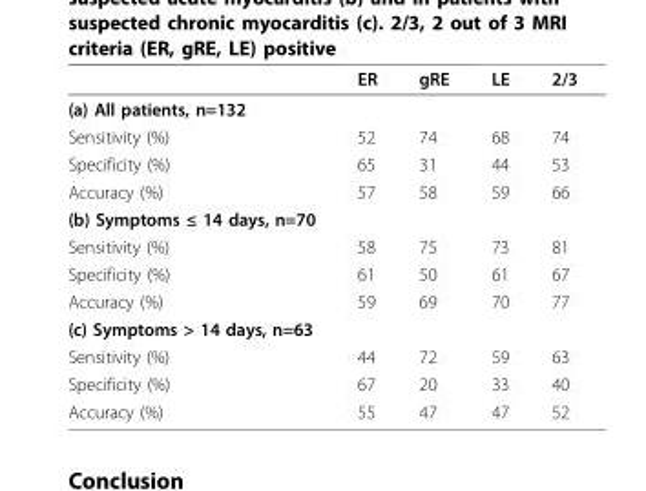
<table><thead><tr><td></td><td>ER</td><td>gRE</td><td>LE</td><td>2/3</td></tr></thead><tbody><tr><td colspan="5">(a) All patients, n=132</td></tr><tr><td>Sensitivity (%)</td><td>52</td><td>74</td><td>68</td><td>74</td></tr><tr><td>Specificity (%)</td><td>65</td><td>31</td><td>44</td><td>53</td></tr><tr><td>Accuracy (%)</td><td>57</td><td>58</td><td>59</td><td>66</td></tr><tr><td colspan="5">(b) Symptoms ≤ 14 days, n=70</td></tr><tr><td>Sensitivity (%)</td><td>58</td><td>75</td><td>73</td><td>81</td></tr><tr><td>Specificity (%)</td><td>61</td><td>50</td><td>61</td><td>67</td></tr><tr><td>Accuracy (%)</td><td>59</td><td>69</td><td>70</td><td>77</td></tr><tr><td colspan="5">(c) Symptoms &gt; 14 days, n=63</td></tr><tr><td>Sensitivity (%)</td><td>44</td><td>72</td><td>59</td><td>63</td></tr><tr><td>Specificity (%)</td><td>67</td><td>20</td><td>33</td><td>40</td></tr><tr><td>Accuracy (%)</td><td>55</td><td>47</td><td>47</td><td>52</td></tr></tbody></table>